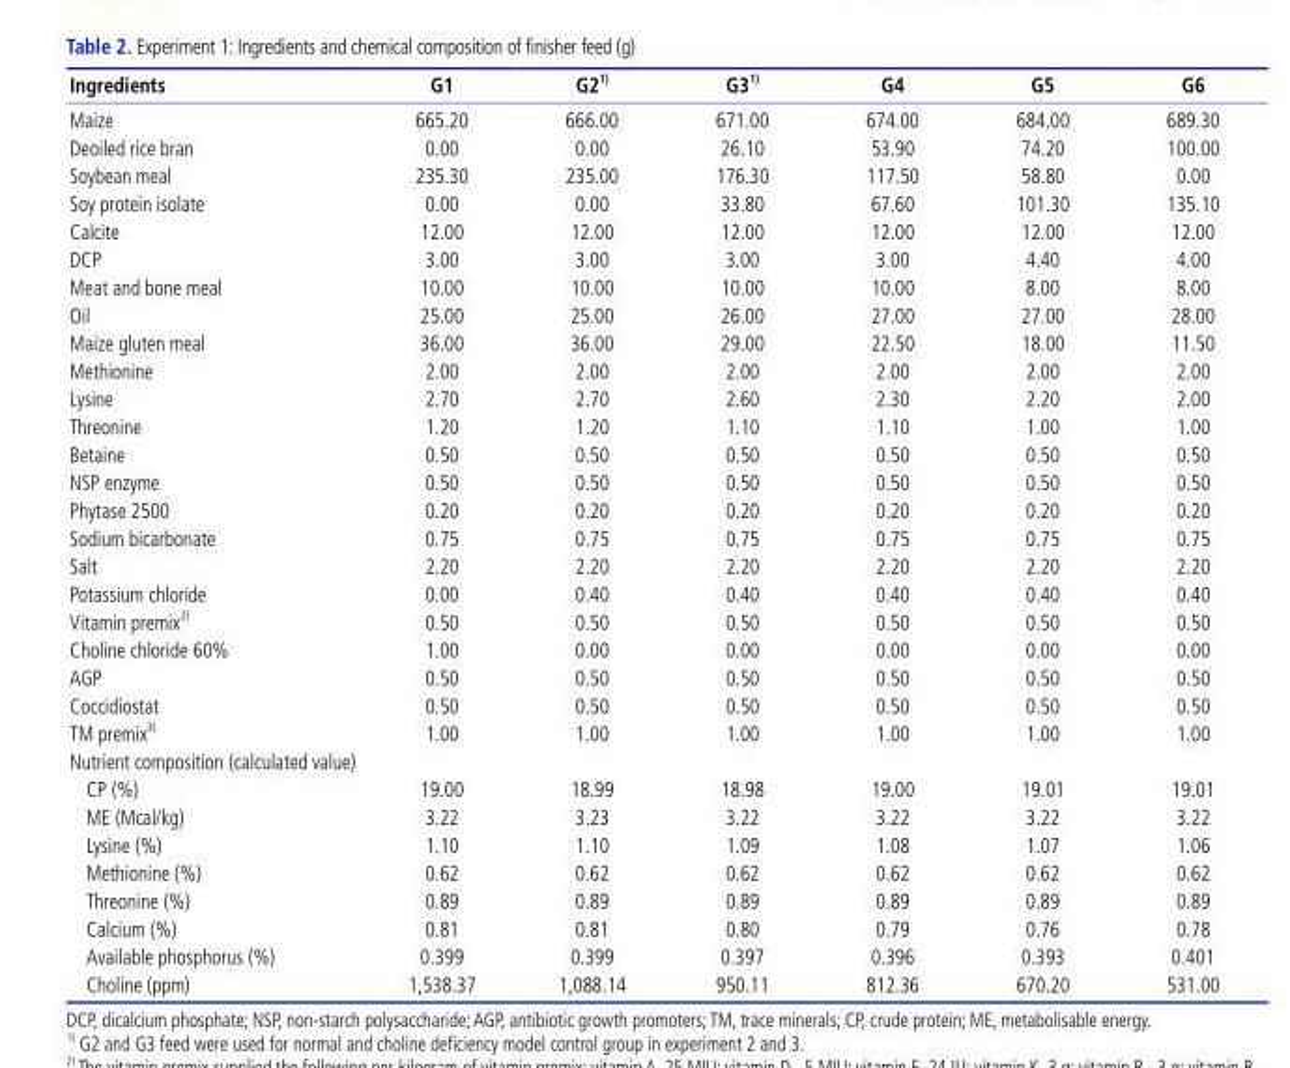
<table><thead><tr><td>Ingredients</td><td>G1</td><td>G2 1)</td><td>G3 1)</td><td>G4</td><td>G5</td><td>G6</td></tr></thead><tbody><tr><td>Maize</td><td>665.20</td><td>666.00</td><td>671.00</td><td>674.00</td><td>684.00</td><td>689.30</td></tr><tr><td>Deoiled rice bran</td><td>0.00</td><td>0.00</td><td>26.10</td><td>53.90</td><td>74.20</td><td>100.00</td></tr><tr><td>Soybean meal</td><td>235.30</td><td>235.00</td><td>176.30</td><td>117.50</td><td>58.80</td><td>0.00</td></tr><tr><td>Soy protein isolate</td><td>0.00</td><td>0.00</td><td>33.80</td><td>67.60</td><td>101.30</td><td>135.10</td></tr><tr><td>Calcite</td><td>12.00</td><td>12.00</td><td>12.00</td><td>12.00</td><td>12.00</td><td>12.00</td></tr><tr><td>DCP</td><td>3.00</td><td>3.00</td><td>3.00</td><td>3.00</td><td>4.40</td><td>4.00</td></tr><tr><td>Meat and bone meal</td><td>10.00</td><td>10.00</td><td>10.00</td><td>10.00</td><td>8.00</td><td>8.00</td></tr><tr><td>Oil</td><td>25.00</td><td>25.00</td><td>26.00</td><td>27.00</td><td>27.00</td><td>28.00</td></tr><tr><td>Maize gluten meal</td><td>36.00</td><td>36.00</td><td>29.00</td><td>22.50</td><td>18.00</td><td>11.50</td></tr><tr><td>Methionine</td><td>2.00</td><td>2.00</td><td>2.00</td><td>2.00</td><td>2.00</td><td>2.00</td></tr><tr><td>Lysine</td><td>2.70</td><td>2.70</td><td>2.60</td><td>2.30</td><td>2.20</td><td>2.00</td></tr><tr><td>Threonine</td><td>1.20</td><td>1.20</td><td>1.10</td><td>1.10</td><td>1.00</td><td>1.00</td></tr><tr><td>Betaine</td><td>0.50</td><td>0.50</td><td>0.50</td><td>0.50</td><td>0.50</td><td>0.50</td></tr><tr><td>NSP enzyme</td><td>0.50</td><td>0.50</td><td>0.50</td><td>0.50</td><td>0.50</td><td>0.50</td></tr><tr><td>Phytase 2500</td><td>0.20</td><td>0.20</td><td>0.20</td><td>0.20</td><td>0.20</td><td>0.20</td></tr><tr><td>Sodium bicarbonate</td><td>0.75</td><td>0.75</td><td>0.75</td><td>0.75</td><td>0.75</td><td>0.75</td></tr><tr><td>Salt</td><td>2.20</td><td>2.20</td><td>2.20</td><td>2.20</td><td>2.20</td><td>2.20</td></tr><tr><td>Potassium chloride</td><td>0.00</td><td>0.40</td><td>0.40</td><td>0.40</td><td>0.40</td><td>0.40</td></tr><tr><td>Vitamin premix 2)</td><td>0.50</td><td>0.50</td><td>0.50</td><td>0.50</td><td>0.50</td><td>0.50</td></tr><tr><td>Choline chloride 60%</td><td>1.00</td><td>0.00</td><td>0.00</td><td>0.00</td><td>0.00</td><td>0.00</td></tr><tr><td>AGP</td><td>0.50</td><td>0.50</td><td>0.50</td><td>0.50</td><td>0.50</td><td>0.50</td></tr><tr><td>Coccidiostat</td><td>0.50</td><td>0.50</td><td>0.50</td><td>0.50</td><td>0.50</td><td>0.50</td></tr><tr><td>TM premix 3)</td><td>1.00</td><td>1.00</td><td>1.00</td><td>1.00</td><td>1.00</td><td>1.00</td></tr><tr><td colspan="7">Nutrient composition (calculated value)</td></tr><tr><td>CP (%)</td><td>19.00</td><td>18.99</td><td>18.98</td><td>19.00</td><td>19.01</td><td>19.01</td></tr><tr><td>ME (Mcal/kg)</td><td>3.22</td><td>3.23</td><td>3.22</td><td>3.22</td><td>3.22</td><td>3.22</td></tr><tr><td>Lysine (%)</td><td>1.10</td><td>1.10</td><td>1.09</td><td>1.08</td><td>1.07</td><td>1.06</td></tr><tr><td>Methionine (%)</td><td>0.62</td><td>0.62</td><td>0.62</td><td>0.62</td><td>0.62</td><td>0.62</td></tr><tr><td>Threonine (%)</td><td>0.89</td><td>0.89</td><td>0.89</td><td>0.89</td><td>0.89</td><td>0.89</td></tr><tr><td>Calcium (%)</td><td>0.81</td><td>0.81</td><td>0.80</td><td>0.79</td><td>0.76</td><td>0.78</td></tr><tr><td>Available phosphorus (%)</td><td>0.399</td><td>0.399</td><td>0.397</td><td>0.396</td><td>0.393</td><td>0.401</td></tr><tr><td>Choline (ppm)</td><td>1,538.37</td><td>1,088.14</td><td>950.11</td><td>812.36</td><td>670.20</td><td>531.00</td></tr></tbody></table>